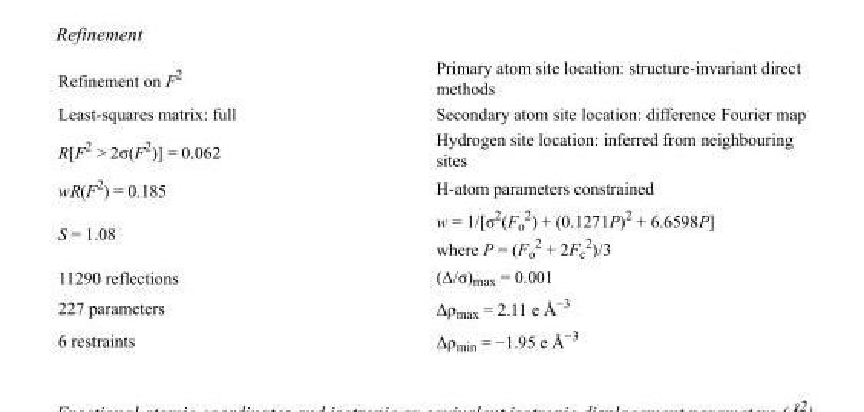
<table><tbody><tr><td>Refinement on F<sup>2</sup></td><td>Primary atom site location: structure-invariant direct methods</td></tr><tr><td>Least-squares matrix: full</td><td>Secondary atom site location: difference Fourier map</td></tr><tr><td>R[F<sup>2</sup> &gt; 2σ(F<sup>2</sup>)] = 0.062</td><td>Hydrogen site location: inferred from neighbouring sites</td></tr><tr><td>wR(F<sup>2</sup>) = 0.185</td><td>H-atom parameters constrained</td></tr><tr><td>S = 1.08</td><td>w = 1/[σ<sup>2</sup>(F<sub>o</sub> <sup>2</sup>) + (0.1271P)<sup>2</sup> + 6.6598P] where P = (F<sub>o</sub> <sup>2</sup> + 2F<sub>c</sub> <sup>2</sup>)/3</td></tr><tr><td>11290 reflections</td><td>(Δ/σ)<sub>max</sub> = 0.001</td></tr><tr><td>227 parameters</td><td>Δρ<sub>max</sub> = 2.11 e Å<sup>−3</sup></td></tr><tr><td>6 restraints</td><td>Δρ<sub>min</sub> = −1.95 e Å<sup>−3</sup></td></tr></tbody></table>